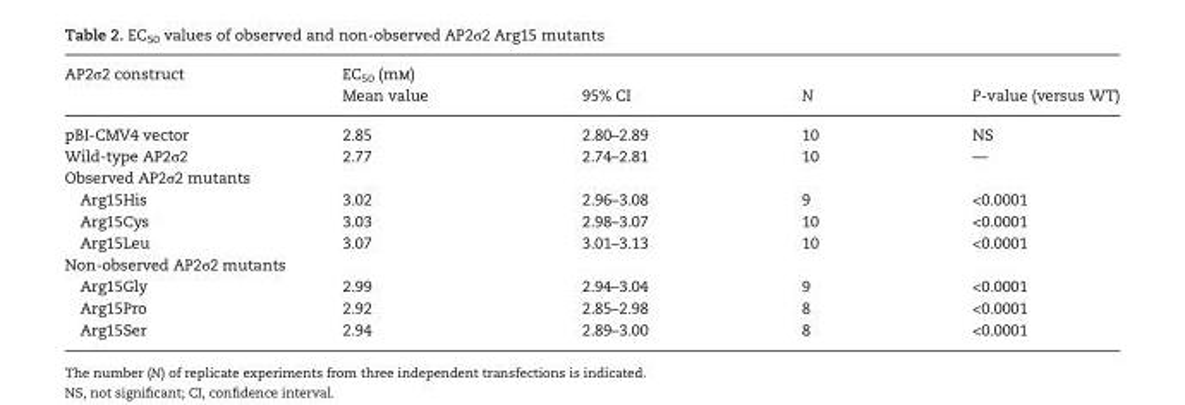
<table><thead><tr><td rowspan="2">AP2σ2 construct</td><td colspan="4">EC<sub>50</sub> (mm)</td></tr><tr><td>Mean value</td><td>95% CI</td><td>N</td><td>P-value (versus WT)</td></tr></thead><tbody><tr><td>pBI-CMV4 vector</td><td>2.85</td><td>2.80–2.89</td><td>10</td><td>NS</td></tr><tr><td>Wild-type AP2σ2</td><td>2.77</td><td>2.74–2.81</td><td>10</td><td>—</td></tr><tr><td colspan="5">Observed AP2σ2 mutants</td></tr><tr><td>Arg15His</td><td>3.02</td><td>2.96–3.08</td><td>9</td><td>&lt;0.0001</td></tr><tr><td>Arg15Cys</td><td>3.03</td><td>2.98–3.07</td><td>10</td><td>&lt;0.0001</td></tr><tr><td>Arg15Leu</td><td>3.07</td><td>3.01–3.13</td><td>10</td><td>&lt;0.0001</td></tr><tr><td colspan="5">Non-observed AP2σ2 mutants</td></tr><tr><td>Arg15Gly</td><td>2.99</td><td>2.94–3.04</td><td>9</td><td>&lt;0.0001</td></tr><tr><td>Arg15Pro</td><td>2.92</td><td>2.85–2.98</td><td>8</td><td>&lt;0.0001</td></tr><tr><td>Arg15Ser</td><td>2.94</td><td>2.89–3.00</td><td>8</td><td>&lt;0.0001</td></tr></tbody></table>